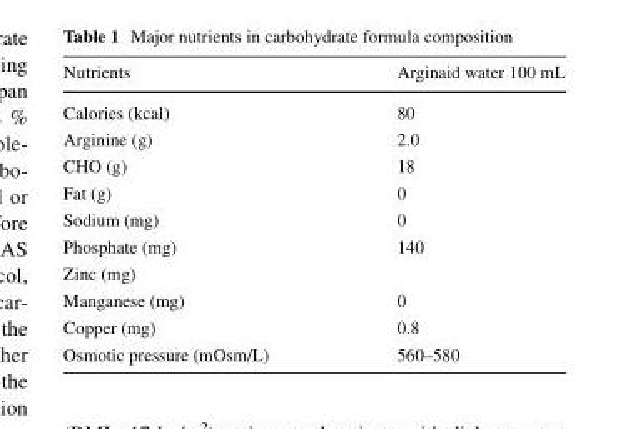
<table><thead><tr><td>Nutrients</td><td>Arginaid water 100 mL</td></tr></thead><tbody><tr><td>Calories (kcal)</td><td>80</td></tr><tr><td>Arginine (g)</td><td>2.0</td></tr><tr><td>CHO (g)</td><td>18</td></tr><tr><td>Fat (g)</td><td>0</td></tr><tr><td>Sodium (mg)</td><td>0</td></tr><tr><td>Phosphate (mg)</td><td>140</td></tr><tr><td colspan="2">Zinc (mg)</td></tr><tr><td>Manganese (mg)</td><td>0</td></tr><tr><td>Copper (mg)</td><td>0.8</td></tr><tr><td>Osmotic pressure (mOsm/L)</td><td>560–580</td></tr></tbody></table>